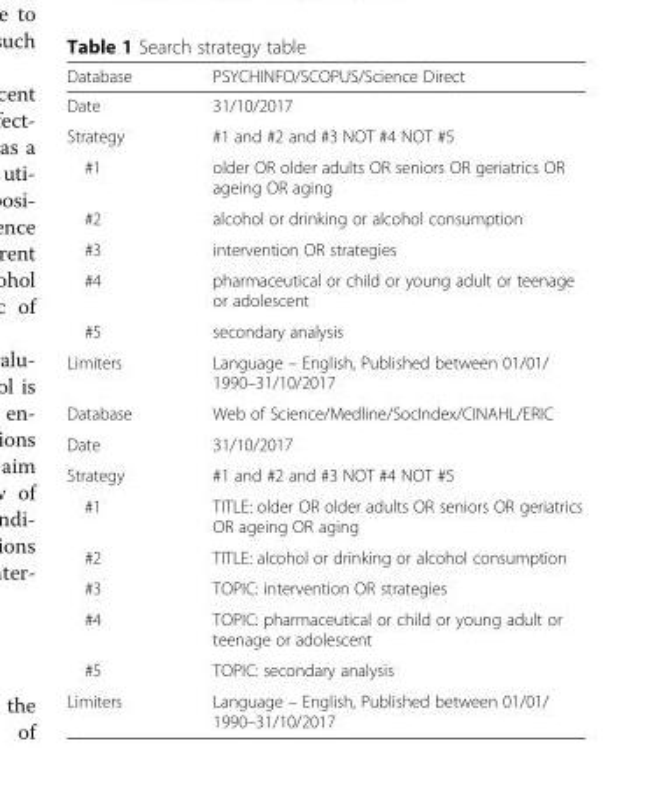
<table><thead><tr><td>Database</td><td>PSYCHINFO/SCOPUS/Science Direct</td></tr></thead><tbody><tr><td>Date</td><td>31/10/2017</td></tr><tr><td>Strategy</td><td>#1 and #2 and #3 NOT #4 NOT #5</td></tr><tr><td>#1</td><td>older OR older adults OR seniors OR geriatrics OR ageing OR aging</td></tr><tr><td>#2</td><td>alcohol or drinking or alcohol consumption</td></tr><tr><td>#3</td><td>intervention OR strategies</td></tr><tr><td>#4</td><td>pharmaceutical or child or young adult or teenage or adolescent</td></tr><tr><td>#5</td><td>secondary analysis</td></tr><tr><td>Limiters</td><td>Language – English, Published between 01/01/ 1990–31/10/2017</td></tr><tr><td>Database</td><td>Web of Science/Medline/SocIndex/CINAHL/ERIC</td></tr><tr><td>Date</td><td>31/10/2017</td></tr><tr><td>Strategy</td><td>#1 and #2 and #3 NOT #4 NOT #5</td></tr><tr><td>#1</td><td>TITLE: older OR older adults OR seniors OR geriatrics OR ageing OR aging</td></tr><tr><td>#2</td><td>TITLE: alcohol or drinking or alcohol consumption</td></tr><tr><td>#3</td><td>TOPIC: intervention OR strategies</td></tr><tr><td>#4</td><td>TOPIC: pharmaceutical or child or young adult or teenage or adolescent</td></tr><tr><td>#5</td><td>TOPIC: secondary analysis</td></tr><tr><td>Limiters</td><td>Language – English, Published between 01/01/ 1990–31/10/2017</td></tr></tbody></table>